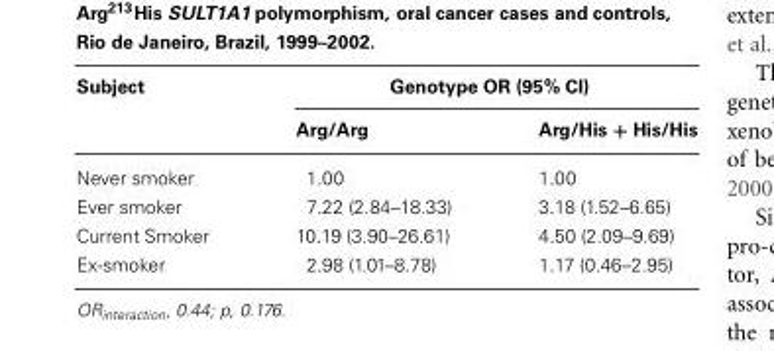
<table><thead><tr><td rowspan="2">Subject</td><td colspan="2">Genotype OR (95% CI)</td></tr><tr><td>Arg/Arg</td><td>Arg/His + His/His</td></tr></thead><tbody><tr><td>Never smoker</td><td>1.00</td><td>1.00</td></tr><tr><td>Ever smoker</td><td>7.22 (2.84–18.33)</td><td>3.18 (1.52–6.65)</td></tr><tr><td>Current Smoker</td><td>10.19 (3.90–26.61)</td><td>4.50 (2.09–9.69)</td></tr><tr><td>Ex-smoker</td><td>2.98 (1.01–8.78)</td><td>1.17 (0.46–2.95)</td></tr></tbody></table>